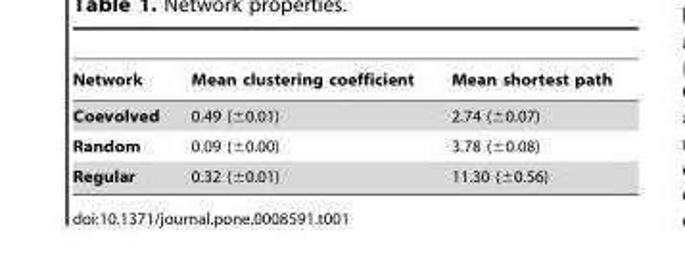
<table><thead><tr><td>Network</td><td>Mean clustering coefficient</td><td>Mean shortest path</td></tr></thead><tbody><tr><td>Coevolved</td><td>0.49 (±0.01)</td><td>2.74 (±0.07)</td></tr><tr><td>Random</td><td>0.09 (±0.00)</td><td>3.78 (±0.08)</td></tr><tr><td>Regular</td><td>0.32 (±0.01)</td><td>11.30 (±0.56)</td></tr></tbody></table>